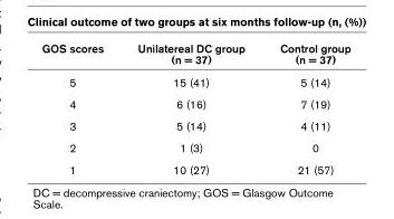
<table><thead><tr><td>GOS scores</td><td>Unilatereal DC group (n = 37)</td><td>Control group (n = 37)</td></tr></thead><tbody><tr><td>5</td><td>15 (41)</td><td>5 (14)</td></tr><tr><td>4</td><td>6 (16)</td><td>7 (19)</td></tr><tr><td>3</td><td>5 (14)</td><td>4 (11)</td></tr><tr><td>2</td><td>1 (3)</td><td>0</td></tr><tr><td>1</td><td>10 (27)</td><td>21 (57)</td></tr></tbody></table>